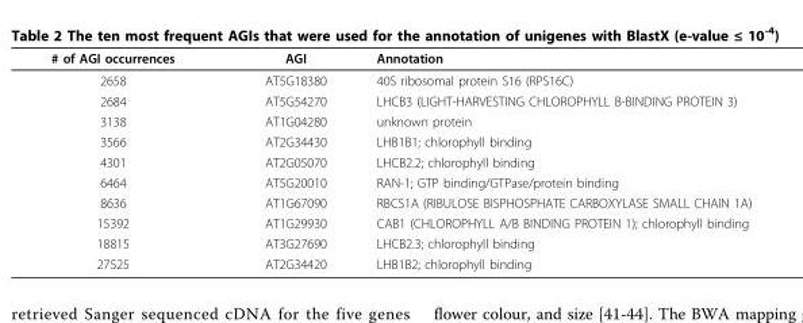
<table><thead><tr><td># of AGI occurrences</td><td>AGI</td><td>Annotation</td></tr></thead><tbody><tr><td>2658</td><td>AT5G18380</td><td>40S ribosomal protein S16 (RPS16C)</td></tr><tr><td>2684</td><td>AT5G54270</td><td>LHCB3 (LIGHT-HARVESTING CHLOROPHYLL B-BINDING PROTEIN 3)</td></tr><tr><td>3138</td><td>AT1G04280</td><td>unknown protein</td></tr><tr><td>3566</td><td>AT2G34430</td><td>LHB1B1; chlorophyll binding</td></tr><tr><td>4301</td><td>AT2G05070</td><td>LHCB2.2; chlorophyll binding</td></tr><tr><td>6464</td><td>AT5G20010</td><td>RAN-1; GTP binding/GTPase/protein binding</td></tr><tr><td>8636</td><td>AT1G67090</td><td>RBCS1A (RIBULOSE BISPHOSPHATE CARBOXYLASE SMALL CHAIN 1A)</td></tr><tr><td>15392</td><td>AT1G29930</td><td>CAB1 (CHLOROPHYLL A/B BINDING PROTEIN 1); chlorophyll binding</td></tr><tr><td>18815</td><td>AT3G27690</td><td>LHCB2.3; chlorophyll binding</td></tr><tr><td>27525</td><td>AT2G34420</td><td>LHB1B2; chlorophyll binding</td></tr></tbody></table>